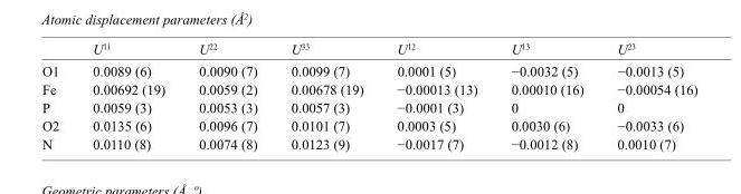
<table><thead><tr><td></td><td>U<sup>11</sup></td><td>U<sup>22</sup></td><td>U<sup>33</sup></td><td>U<sup>12</sup></td><td>U<sup>13</sup></td><td>U<sup>23</sup></td></tr></thead><tbody><tr><td>O1</td><td>0.0089 (6)</td><td>0.0090 (7)</td><td>0.0099 (7)</td><td>0.0001 (5)</td><td>−0.0032 (5)</td><td>−0.0013 (5)</td></tr><tr><td>Fe</td><td>0.00692 (19)</td><td>0.0059 (2)</td><td>0.00678 (19)</td><td>−0.00013 (13)</td><td>0.00010 (16)</td><td>−0.00054 (16)</td></tr><tr><td>P</td><td>0.0059 (3)</td><td>0.0053 (3)</td><td>0.0057 (3)</td><td>−0.0001 (3)</td><td>0</td><td>0</td></tr><tr><td>O2</td><td>0.0135 (6)</td><td>0.0096 (7)</td><td>0.0101 (7)</td><td>0.0003 (5)</td><td>0.0030 (6)</td><td>−0.0033 (6)</td></tr><tr><td>N</td><td>0.0110 (8)</td><td>0.0074 (8)</td><td>0.0123 (9)</td><td>−0.0017 (7)</td><td>−0.0012 (8)</td><td>0.0010 (7)</td></tr></tbody></table>